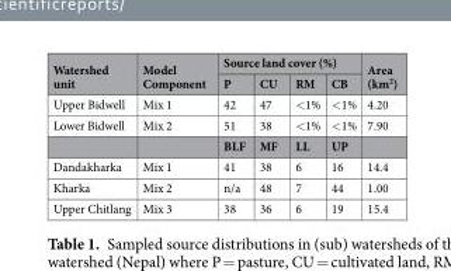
<table><thead><tr><td rowspan="2">Watershed unit</td><td rowspan="2">Model Component</td><td colspan="4">Source land cover (%)</td><td rowspan="2">Area (km<sup>2</sup>)</td></tr><tr><td>P</td><td>CU</td><td>RM</td><td>CB</td></tr></thead><tbody><tr><td>Upper Bidwell</td><td>Mix 1</td><td>42</td><td>47</td><td>&lt;1%</td><td>&lt;1%</td><td>4.20</td></tr><tr><td rowspan="2">Lower Bidwell</td><td>Mix 2</td><td>51</td><td>38</td><td>&lt;1%</td><td>&lt;1%</td><td>7.90</td></tr><tr><td></td><td>BLF</td><td>MF</td><td>LL</td><td>UP</td><td></td></tr><tr><td>Dandakharka</td><td>Mix 1</td><td>41</td><td>38</td><td>6</td><td>16</td><td>14.4</td></tr><tr><td>Kharka</td><td>Mix 2</td><td>n/a</td><td>48</td><td>7</td><td>44</td><td>1.00</td></tr><tr><td>Upper Chitlang</td><td>Mix 3</td><td>38</td><td>36</td><td>6</td><td>19</td><td>15.4</td></tr></tbody></table>